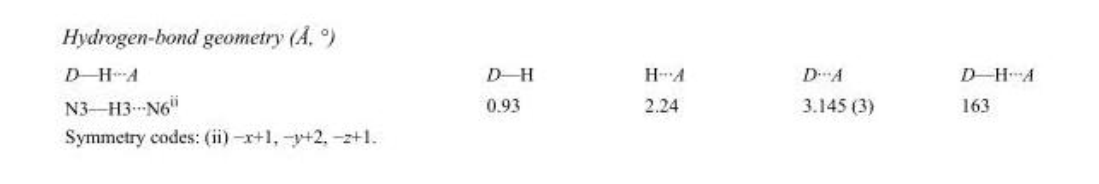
<table><tbody><tr><td>D—H···A</td><td>D—H</td><td>H···A</td><td>D···A</td><td>D—H···A</td></tr><tr><td>N3—H3···N6<sup>ii</sup></td><td>0.93</td><td>2.24</td><td>3.145 (3)</td><td>163</td></tr></tbody></table>